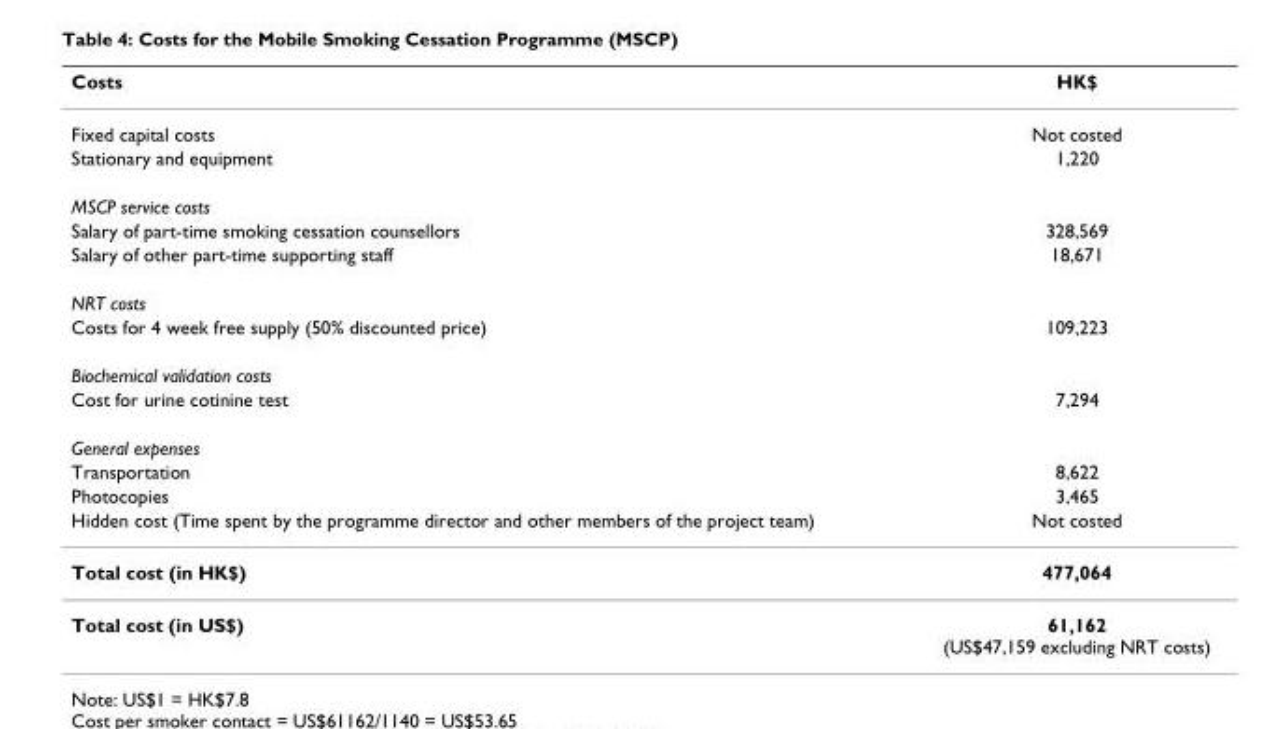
<table><thead><tr><td>Costs</td><td>HK$</td></tr></thead><tbody><tr><td>Fixed capital costs</td><td>Not costed</td></tr><tr><td>Stationary and equipment</td><td>1,220</td></tr><tr><td colspan="2">MSCP service costs</td></tr><tr><td>Salary of part-time smoking cessation counsellors</td><td>328,569</td></tr><tr><td>Salary of other part-time supporting staff</td><td>18,671</td></tr><tr><td colspan="2">NRT costs</td></tr><tr><td>Costs for 4 week free supply (50% discounted price)</td><td>109,223</td></tr><tr><td colspan="2">Biochemical validation costs</td></tr><tr><td>Cost for urine cotinine test</td><td>7,294</td></tr><tr><td colspan="2">General expenses</td></tr><tr><td>Transportation</td><td>8,622</td></tr><tr><td>Photocopies</td><td>3,465</td></tr><tr><td>Hidden cost (Time spent by the programme director and other members of the project team)</td><td>Not costed</td></tr><tr><td>Total cost (in HK$)</td><td>477,064</td></tr><tr><td>Total cost (in US$)</td><td>61,162 (US$47,159 excluding NRT costs)</td></tr></tbody></table>